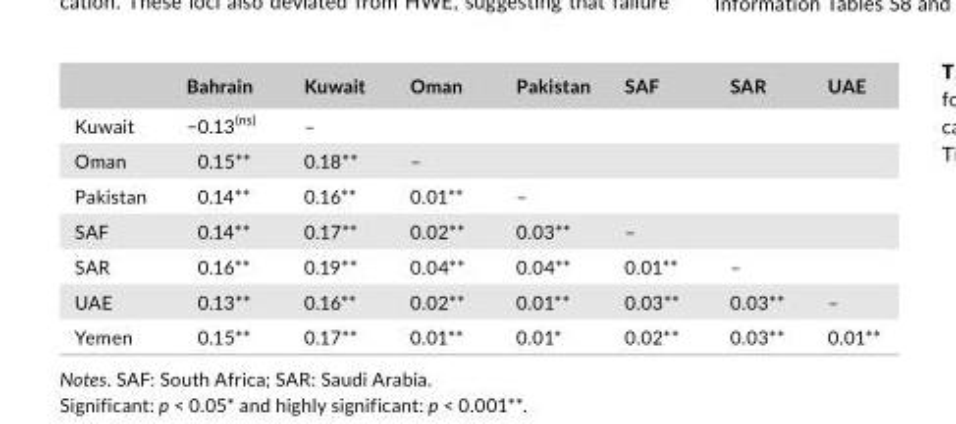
<table><thead><tr><td></td><td>Bahrain</td><td>Kuwait</td><td>Oman</td><td>Pakistan</td><td>SAF</td><td>SAR</td><td>UAE</td></tr></thead><tbody><tr><td>Kuwait</td><td>−0.13<sup>(ns)</sup></td><td>–</td><td></td><td></td><td></td><td></td><td></td></tr><tr><td>Oman</td><td>0.15**</td><td>0.18**</td><td>–</td><td></td><td></td><td></td><td></td></tr><tr><td>Pakistan</td><td>0.14**</td><td>0.16**</td><td>0.01**</td><td>–</td><td></td><td></td><td></td></tr><tr><td>SAF</td><td>0.14**</td><td>0.17**</td><td>0.02**</td><td>0.03**</td><td>–</td><td></td><td></td></tr><tr><td>SAR</td><td>0.16**</td><td>0.19**</td><td>0.04**</td><td>0.04**</td><td>0.01**</td><td>–</td><td></td></tr><tr><td>UAE</td><td>0.13**</td><td>0.16**</td><td>0.02**</td><td>0.01**</td><td>0.03**</td><td>0.03**</td><td>–</td></tr><tr><td>Yemen</td><td>0.15**</td><td>0.17**</td><td>0.01**</td><td>0.01*</td><td>0.02**</td><td>0.03**</td><td>0.01**</td></tr></tbody></table>